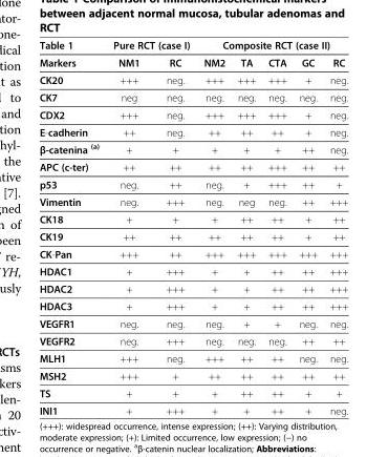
<table><thead><tr><td rowspan="2">Table 1 Markers</td><td colspan="2">Pure RCT (case I)</td><td colspan="5">Composite RCT (case II)</td></tr><tr><td>NM1</td><td>RC</td><td>NM2</td><td>TA</td><td>CTA</td><td>GC</td><td>RC</td></tr></thead><tbody><tr><td>CK20</td><td>+++</td><td>neg.</td><td>+++</td><td>+++</td><td>+++</td><td>+</td><td>neg.</td></tr><tr><td>CK7</td><td>neg</td><td>neg.</td><td>neg.</td><td>neg.</td><td>neg.</td><td>neg.</td><td>neg.</td></tr><tr><td>CDX2</td><td>+++</td><td>neg.</td><td>+++</td><td>+++</td><td>+++</td><td>+</td><td>neg.</td></tr><tr><td>E-cadherin</td><td>++</td><td>neg.</td><td>++</td><td>++</td><td>++</td><td>+</td><td>neg.</td></tr><tr><td>β-catenina <sup>(a)</sup></td><td>+</td><td>+</td><td>+</td><td>+</td><td>+</td><td>++</td><td>neg.</td></tr><tr><td>APC (c-ter)</td><td>++</td><td>++</td><td>++</td><td>++</td><td>+++</td><td>++</td><td>++</td></tr><tr><td>p53</td><td>neg.</td><td>++</td><td>neg.</td><td>+</td><td>+++</td><td>++</td><td>+</td></tr><tr><td>Vimentin</td><td>neg.</td><td>+++</td><td>neg.</td><td>neg</td><td>neg.</td><td>++</td><td>+++</td></tr><tr><td>CK18</td><td>+</td><td>+</td><td>+</td><td>++</td><td>++</td><td>+</td><td>++</td></tr><tr><td>CK19</td><td>++</td><td>++</td><td>++</td><td>++</td><td>++</td><td>+</td><td>++</td></tr><tr><td>CK-Pan</td><td>+++</td><td>++</td><td>+++</td><td>+++</td><td>+++</td><td>+++</td><td>+++</td></tr><tr><td>HDAC1</td><td>+</td><td>+++</td><td>+</td><td>+</td><td>++</td><td>++</td><td>+++</td></tr><tr><td>HDAC2</td><td>+</td><td>+++</td><td>+</td><td>+</td><td>++</td><td>++</td><td>+++</td></tr><tr><td>HDAC3</td><td>+</td><td>+++</td><td>+</td><td>+</td><td>++</td><td>++</td><td>+++</td></tr><tr><td>VEGFR1</td><td>neg.</td><td>neg.</td><td>neg.</td><td>+</td><td>+</td><td>neg.</td><td>neg.</td></tr><tr><td>VEGFR2</td><td>neg.</td><td>+++</td><td>neg.</td><td>neg.</td><td>neg.</td><td>++</td><td>++</td></tr><tr><td>MLH1</td><td>+++</td><td>neg.</td><td>+++</td><td>++</td><td>++</td><td>neg.</td><td>neg.</td></tr><tr><td>MSH2</td><td>+++</td><td>+</td><td>++</td><td>++</td><td>++</td><td>++</td><td>++</td></tr><tr><td>TS</td><td>+</td><td>+</td><td>+</td><td>++</td><td>++</td><td>+</td><td>+</td></tr><tr><td>INI1</td><td>+</td><td>+++</td><td>+</td><td>+</td><td>++</td><td>+</td><td>neg.</td></tr></tbody></table>